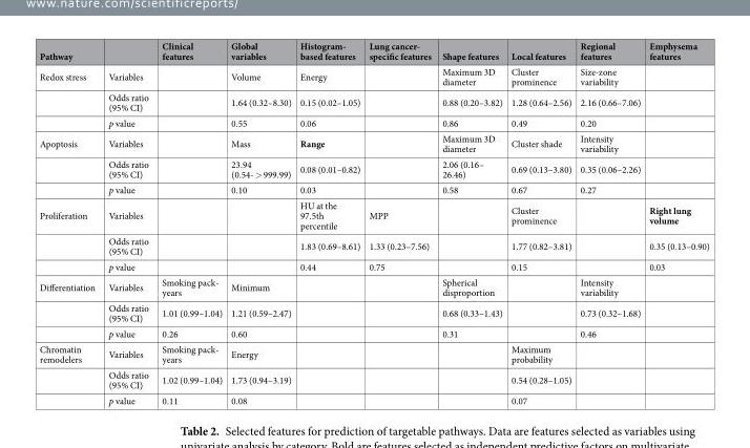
<table><thead><tr><td>Pathway</td><td></td><td>Clinical features</td><td>Global variables</td><td>Histogram- based features</td><td>Lung cancer- specific features</td><td>Shape features</td><td>Local features</td><td>Regional features</td><td>Emphysema features</td></tr></thead><tbody><tr><td rowspan="3">Redox stress</td><td>Variables</td><td></td><td>Volume</td><td>Energy</td><td></td><td>Maximum 3D diameter</td><td>Cluster prominence</td><td>Size-zone variability</td><td></td></tr><tr><td>Odds ratio (95% CI)</td><td></td><td>1.64 (0.32–8.30)</td><td>0.15 (0.02–1.05)</td><td></td><td>0.88 (0.20–3.82)</td><td>1.28 (0.64–2.56)</td><td>2.16 (0.66–7.06)</td><td></td></tr><tr><td>p value</td><td></td><td>0.55</td><td>0.06</td><td></td><td>0.86</td><td>0.49</td><td>0.20</td><td></td></tr><tr><td rowspan="3">Apoptosis</td><td>Variables</td><td></td><td>Mass</td><td>Range</td><td></td><td>Maximum 3D diameter</td><td>Cluster shade</td><td>Intensity variability</td><td></td></tr><tr><td>Odds ratio (95% CI)</td><td></td><td>23.94 (0.54- &gt; 999.99)</td><td>0.08 (0.01–0.82)</td><td></td><td>2.06 (0.16– 26.46)</td><td>0.69 (0.13–3.80)</td><td>0.35 (0.06–2.26)</td><td></td></tr><tr><td>p value</td><td></td><td>0.10</td><td>0.03</td><td></td><td>0.58</td><td>0.67</td><td>0.27</td><td></td></tr><tr><td rowspan="3">Proliferation</td><td>Variables</td><td></td><td></td><td>HU at the 97.5th percentile</td><td>MPP</td><td></td><td>Cluster prominence</td><td></td><td>Right lung volume</td></tr><tr><td>Odds ratio (95% CI)</td><td></td><td></td><td>1.83 (0.69–8.61)</td><td>1.33 (0.23–7.56)</td><td></td><td>1.77 (0.82–3.81)</td><td></td><td>0.35 (0.13–0.90)</td></tr><tr><td>p value</td><td></td><td></td><td>0.44</td><td>0.75</td><td></td><td>0.15</td><td></td><td>0.03</td></tr><tr><td rowspan="3">Differentiation</td><td>Variables</td><td>Smoking pack- years</td><td>Minimum</td><td></td><td></td><td>Spherical disproportion</td><td></td><td>Intensity variability</td><td></td></tr><tr><td>Odds ratio (95% CI)</td><td>1.01 (0.99–1.04)</td><td>1.21 (0.59–2.47)</td><td></td><td></td><td>0.68 (0.33–1.43)</td><td></td><td>0.73 (0.32–1.68)</td><td></td></tr><tr><td>p value</td><td>0.26</td><td>0.60</td><td></td><td></td><td>0.31</td><td></td><td>0.46</td><td></td></tr><tr><td rowspan="3">Chromatin remodelers</td><td>Variables</td><td>Smoking pack- years</td><td>Energy</td><td></td><td></td><td></td><td>Maximum probability</td><td></td><td></td></tr><tr><td>Odds ratio (95% CI)</td><td>1.02 (0.99–1.04)</td><td>1.73 (0.94–3.19)</td><td></td><td></td><td></td><td>0.54 (0.28–1.05)</td><td></td><td></td></tr><tr><td>p value</td><td>0.11</td><td>0.08</td><td></td><td></td><td></td><td>0.07</td><td></td><td></td></tr></tbody></table>